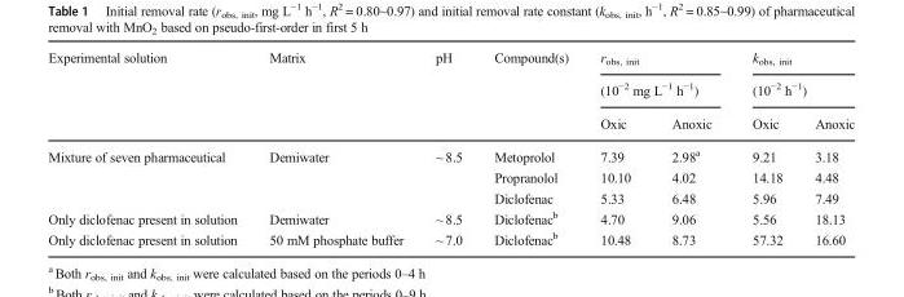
<table><thead><tr><td rowspan="3">Experimental solution</td><td rowspan="3">Matrix</td><td rowspan="3">pH</td><td rowspan="3">Compound(s)</td><td rowspan="2" colspan="2">r<sub>obs, init</sub> (10<sup>−2</sup> mg L<sup>−1</sup> h<sup>−1</sup>)</td><td rowspan="2" colspan="2">k<sub>obs, init</sub> (10<sup>−2</sup> h<sup>−1</sup>)</td></tr><tr></tr><tr><td>Oxic</td><td>Anoxic</td><td>Oxic</td><td>Anoxic</td></tr></thead><tbody><tr><td rowspan="3">Mixture of seven pharmaceutical</td><td rowspan="3">Demiwater</td><td rowspan="3">~ 8.5</td><td>Metoprolol</td><td>7.39</td><td>2.98<sup>a</sup></td><td>9.21</td><td>3.18</td></tr><tr><td>Propranolol</td><td>10.10</td><td>4.02</td><td>14.18</td><td>4.48</td></tr><tr><td>Diclofenac</td><td>5.33</td><td>6.48</td><td>5.96</td><td>7.49</td></tr><tr><td>Only diclofenac present in solution</td><td>Demiwater</td><td>~ 8.5</td><td>Diclofenac<sup>b</sup></td><td>4.70</td><td>9.06</td><td>5.56</td><td>18.13</td></tr><tr><td>Only diclofenac present in solution</td><td>50 mM phosphate buffer</td><td>~ 7.0</td><td>Diclofenac<sup>b</sup></td><td>10.48</td><td>8.73</td><td>57.32</td><td>16.60</td></tr></tbody></table>